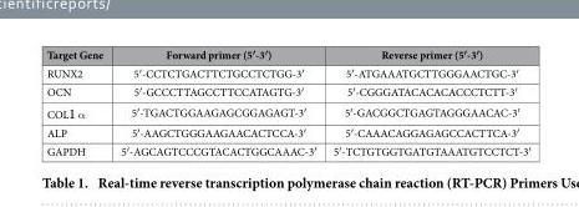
<table><thead><tr><td>Target Gene</td><td>Forward primer (5′-3′)</td><td>Reverse primer (5′-3′)</td></tr></thead><tbody><tr><td>RUNX2</td><td>5′ -CCTCTGACTTCTGCCTCTGG-3′</td><td>5′ -ATGAAATGCTTGGGAACTGC-3′</td></tr><tr><td>OCN</td><td>5′ -GCCCTTAGCCTTCCATAGTG-3′</td><td>5′ -CGGGATACACACACCCTCTT-3′</td></tr><tr><td>COL1 α</td><td>5′ -TGACTGGAAGAGCGGAGAGT-3′</td><td>5′ -GACGGCTGAGTAGGGAACAC-3′</td></tr><tr><td>ALP</td><td>5′ -AAGCTGGGAAGAACACTCCA-3′</td><td>5′ -CAAACAGGAGAGCCACTTCA-3′</td></tr><tr><td>GAPDH</td><td>5′ -AGCAGTCCCGTACACTGGCAAAC-3′</td><td>5′ -TCTGTGGTGATGTAAATGTCCTCT-3′</td></tr></tbody></table>